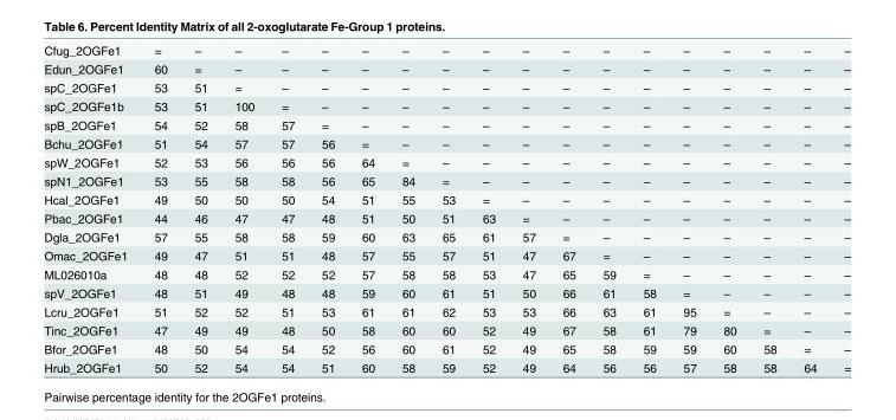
<table><tbody><tr><td>Cfug_2OGFe1</td><td>=</td><td>–</td><td>–</td><td>–</td><td>–</td><td>–</td><td>–</td><td>–</td><td>–</td><td>–</td><td>–</td><td>–</td><td>–</td><td>–</td><td>–</td><td>–</td><td>–</td><td>–</td></tr><tr><td>Edun_2OGFe1</td><td>60</td><td>=</td><td>–</td><td>–</td><td>–</td><td>–</td><td>–</td><td>–</td><td>–</td><td>–</td><td>–</td><td>–</td><td>–</td><td>–</td><td>–</td><td>–</td><td>–</td><td>–</td></tr><tr><td>spC_2OGFe1</td><td>53</td><td>51</td><td>=</td><td>–</td><td>–</td><td>–</td><td>–</td><td>–</td><td>–</td><td>–</td><td>–</td><td>–</td><td>–</td><td>–</td><td>–</td><td>–</td><td>–</td><td>–</td></tr><tr><td>spC_2OGFe1b</td><td>53</td><td>51</td><td>100</td><td>=</td><td>–</td><td>–</td><td>–</td><td>–</td><td>–</td><td>–</td><td>–</td><td>–</td><td>–</td><td>–</td><td>–</td><td>–</td><td>–</td><td>–</td></tr><tr><td>spB_2OGFe1</td><td>54</td><td>52</td><td>58</td><td>57</td><td>=</td><td>–</td><td>–</td><td>–</td><td>–</td><td>–</td><td>–</td><td>–</td><td>–</td><td>–</td><td>–</td><td>–</td><td>–</td><td>–</td></tr><tr><td>Bchu_2OGFe1</td><td>51</td><td>54</td><td>57</td><td>57</td><td>56</td><td>=</td><td>–</td><td>–</td><td>–</td><td>–</td><td>–</td><td>–</td><td>–</td><td>–</td><td>–</td><td>–</td><td>–</td><td>–</td></tr><tr><td>spW_2OGFe1</td><td>52</td><td>53</td><td>56</td><td>56</td><td>56</td><td>64</td><td>=</td><td>–</td><td>–</td><td>–</td><td>–</td><td>–</td><td>–</td><td>–</td><td>–</td><td>–</td><td>–</td><td>–</td></tr><tr><td>spN1_2OGFe1</td><td>53</td><td>55</td><td>58</td><td>58</td><td>56</td><td>65</td><td>84</td><td>=</td><td>–</td><td>–</td><td>–</td><td>–</td><td>–</td><td>–</td><td>–</td><td>–</td><td>–</td><td>–</td></tr><tr><td>Hcal_2OGFe1</td><td>49</td><td>50</td><td>50</td><td>50</td><td>54</td><td>51</td><td>55</td><td>53</td><td>=</td><td>–</td><td>–</td><td>–</td><td>–</td><td>–</td><td>–</td><td>–</td><td>–</td><td>–</td></tr><tr><td>Pbac_2OGFe1</td><td>44</td><td>46</td><td>47</td><td>47</td><td>48</td><td>51</td><td>50</td><td>51</td><td>63</td><td>=</td><td>–</td><td>–</td><td>–</td><td>–</td><td>–</td><td>–</td><td>–</td><td>–</td></tr><tr><td>Dgla_2OGFe1</td><td>57</td><td>55</td><td>58</td><td>58</td><td>59</td><td>60</td><td>63</td><td>65</td><td>61</td><td>57</td><td>=</td><td>–</td><td>–</td><td>–</td><td>–</td><td>–</td><td>–</td><td>–</td></tr><tr><td>Omac_2OGFe1</td><td>49</td><td>47</td><td>51</td><td>51</td><td>48</td><td>57</td><td>55</td><td>57</td><td>51</td><td>47</td><td>67</td><td>=</td><td>–</td><td>–</td><td>–</td><td>–</td><td>–</td><td>–</td></tr><tr><td>ML026010a</td><td>48</td><td>48</td><td>52</td><td>52</td><td>52</td><td>57</td><td>58</td><td>58</td><td>53</td><td>47</td><td>65</td><td>59</td><td>=</td><td>–</td><td>–</td><td>–</td><td>–</td><td>–</td></tr><tr><td>spV_2OGFe1</td><td>48</td><td>51</td><td>49</td><td>48</td><td>48</td><td>59</td><td>60</td><td>61</td><td>51</td><td>50</td><td>66</td><td>61</td><td>58</td><td>=</td><td>–</td><td>–</td><td>–</td><td>–</td></tr><tr><td>Lcru_2OGFe1</td><td>51</td><td>52</td><td>52</td><td>51</td><td>53</td><td>61</td><td>61</td><td>62</td><td>53</td><td>53</td><td>66</td><td>63</td><td>61</td><td>95</td><td>=</td><td>–</td><td>–</td><td>–</td></tr><tr><td>Tinc_2OGFe1</td><td>47</td><td>49</td><td>49</td><td>48</td><td>50</td><td>58</td><td>60</td><td>60</td><td>52</td><td>49</td><td>67</td><td>58</td><td>61</td><td>79</td><td>80</td><td>=</td><td>–</td><td>–</td></tr><tr><td>Bfor_2OGFe1</td><td>48</td><td>50</td><td>54</td><td>54</td><td>52</td><td>56</td><td>60</td><td>61</td><td>52</td><td>49</td><td>65</td><td>58</td><td>59</td><td>59</td><td>60</td><td>58</td><td>=</td><td>–</td></tr><tr><td>Hrub_2OGFe1</td><td>50</td><td>52</td><td>54</td><td>54</td><td>51</td><td>60</td><td>58</td><td>59</td><td>52</td><td>49</td><td>64</td><td>56</td><td>56</td><td>57</td><td>58</td><td>58</td><td>64</td><td>=</td></tr></tbody></table>